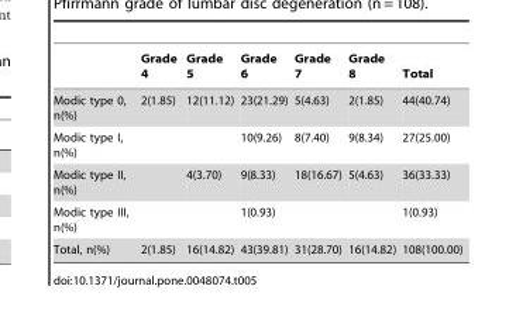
<table><thead><tr><td></td><td>Grade 4</td><td>Grade 5</td><td>Grade 6</td><td>Grade 7</td><td>Grade 8</td><td>Total</td></tr></thead><tbody><tr><td>Modic type 0, n(%)</td><td>2(1.85)</td><td>12(11.12)</td><td>23(21.29)</td><td>5(4.63)</td><td>2(1.85)</td><td>44(40.74)</td></tr><tr><td>Modic type I, n(%)</td><td></td><td></td><td>10(9.26)</td><td>8(7.40)</td><td>9(8.34)</td><td>27(25.00)</td></tr><tr><td>Modic type II, n(%)</td><td></td><td>4(3.70)</td><td>9(8.33)</td><td>18(16.67)</td><td>5(4.63)</td><td>36(33.33)</td></tr><tr><td>Modic type III, n(%)</td><td></td><td></td><td>1(0.93)</td><td></td><td></td><td>1(0.93)</td></tr><tr><td>Total, n(%)</td><td>2(1.85)</td><td>16(14.82)</td><td>43(39.81)</td><td>31(28.70)</td><td>16(14.82)</td><td>108(100.00)</td></tr></tbody></table>